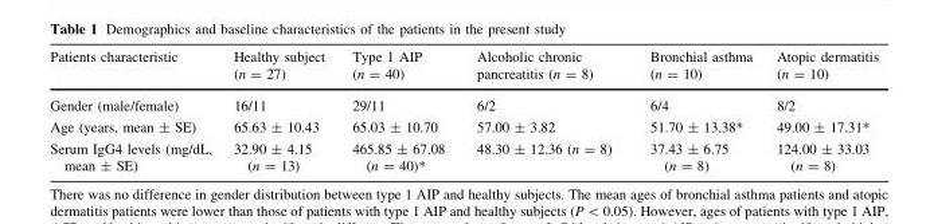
<table><thead><tr><td>Patients characteristic</td><td>Healthy subject (n = 27)</td><td>Type 1 AIP (n = 40)</td><td>Alcoholic chronic pancreatitis (n = 8)</td><td>Bronchial asthma (n = 10)</td><td>Atopic dermatitis (n = 10)</td></tr></thead><tbody><tr><td>Gender (male/female)</td><td>16/11</td><td>29/11</td><td>6/2</td><td>6/4</td><td>8/2</td></tr><tr><td>Age (years, mean ± SE)</td><td>65.63 ± 10.43</td><td>65.03 ± 10.70</td><td>57.00 ± 3.82</td><td>51.70 ± 13.38*</td><td>49.00 ± 17.31*</td></tr><tr><td>Serum IgG4 levels (mg/dL, mean ± SE)</td><td>32.90 ± 4.15 (n = 13)</td><td>465.85 ± 67.08 (n = 40)*</td><td>48.30 ± 12.36 (n = 8)</td><td>37.43 ± 6.75 (n = 8)</td><td>124.00 ± 33.03 (n = 8)</td></tr></tbody></table>